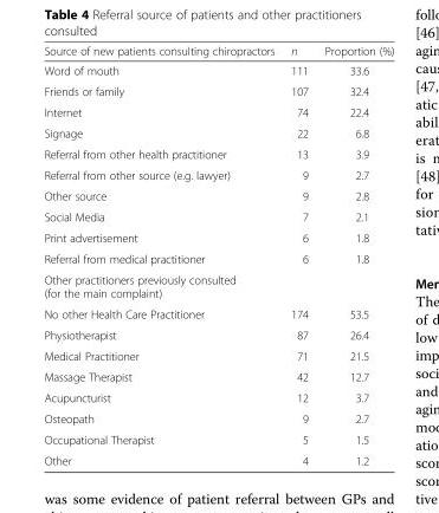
<table><thead><tr><td>Source of new patients consulting chiropractors</td><td>n</td><td>Proportion (%)</td></tr></thead><tbody><tr><td>Word of mouth</td><td>111</td><td>33.6</td></tr><tr><td>Friends or family</td><td>107</td><td>32.4</td></tr><tr><td>Internet</td><td>74</td><td>22.4</td></tr><tr><td>Signage</td><td>22</td><td>6.8</td></tr><tr><td>Referral from other health practitioner</td><td>13</td><td>3.9</td></tr><tr><td>Referral from other source (e.g. lawyer)</td><td>9</td><td>2.7</td></tr><tr><td>Other source</td><td>9</td><td>2.8</td></tr><tr><td>Social Media</td><td>7</td><td>2.1</td></tr><tr><td>Print advertisement</td><td>6</td><td>1.8</td></tr><tr><td>Referral from medical practitioner</td><td>6</td><td>1.8</td></tr><tr><td colspan="3">Other practitioners previously consulted (for the main complaint)</td></tr><tr><td>No other Health Care Practitioner</td><td>174</td><td>53.5</td></tr><tr><td>Physiotherapist</td><td>87</td><td>26.4</td></tr><tr><td>Medical Practitioner</td><td>71</td><td>21.5</td></tr><tr><td>Massage Therapist</td><td>42</td><td>12.7</td></tr><tr><td>Acupuncturist</td><td>12</td><td>3.7</td></tr><tr><td>Osteopath</td><td>9</td><td>2.7</td></tr><tr><td>Occupational Therapist</td><td>5</td><td>1.5</td></tr><tr><td>Other</td><td>4</td><td>1.2</td></tr></tbody></table>